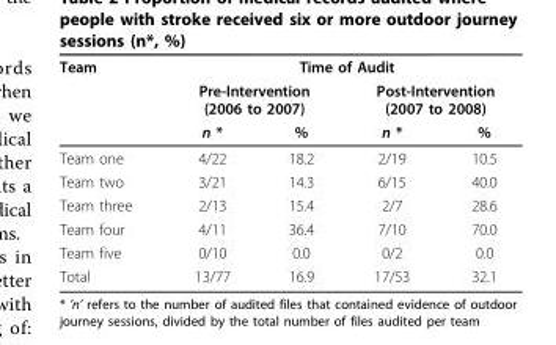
<table><thead><tr><td rowspan="3">Team</td><td colspan="4">Time of Audit</td></tr><tr><td colspan="2">Pre-Intervention (2006 to 2007)</td><td colspan="2">Post-Intervention (2007 to 2008)</td></tr><tr><td>n *</td><td>%</td><td>n *</td><td>%</td></tr></thead><tbody><tr><td>Team one</td><td>4/22</td><td>18.2</td><td>2/19</td><td>10.5</td></tr><tr><td>Team two</td><td>3/21</td><td>14.3</td><td>6/15</td><td>40.0</td></tr><tr><td>Team three</td><td>2/13</td><td>15.4</td><td>2/7</td><td>28.6</td></tr><tr><td>Team four</td><td>4/11</td><td>36.4</td><td>7/10</td><td>70.0</td></tr><tr><td>Team five</td><td>0/10</td><td>0.0</td><td>0/2</td><td>0.0</td></tr><tr><td>Total</td><td>13/77</td><td>16.9</td><td>17/53</td><td>32.1</td></tr></tbody></table>